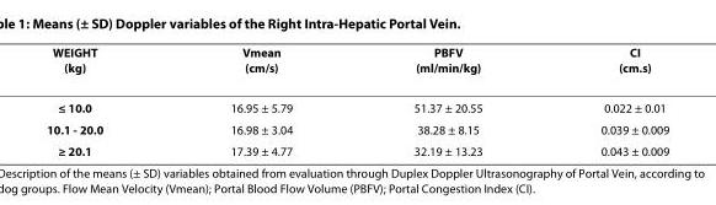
<table><thead><tr><td>WEIGHT (kg)</td><td>Vmean (cm/s)</td><td>PBFV (ml/min/kg)</td><td>CI (cm.s)</td></tr></thead><tbody><tr><td>≤ 10.0</td><td>16.95 ± 5.79</td><td>51.37 ± 20.55</td><td>0.022 ± 0.01</td></tr><tr><td>10.1 - 20.0</td><td>16.98 ± 3.04</td><td>38.28 ± 8.15</td><td>0.039 ± 0.009</td></tr><tr><td>≥ 20.1</td><td>17.39 ± 4.77</td><td>32.19 ± 13.23</td><td>0.043 ± 0.009</td></tr></tbody></table>